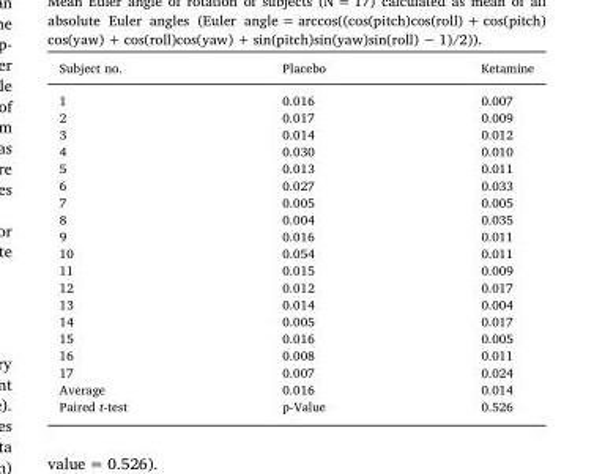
<table><thead><tr><td>Subject no.</td><td>Placebo</td><td>Ketamine</td></tr></thead><tbody><tr><td>1</td><td>0.016</td><td>0.007</td></tr><tr><td>2</td><td>0.017</td><td>0.009</td></tr><tr><td>3</td><td>0.014</td><td>0.012</td></tr><tr><td>4</td><td>0.030</td><td>0.010</td></tr><tr><td>5</td><td>0.013</td><td>0.011</td></tr><tr><td>6</td><td>0.027</td><td>0.033</td></tr><tr><td>7</td><td>0.005</td><td>0.005</td></tr><tr><td>8</td><td>0.004</td><td>0.035</td></tr><tr><td>9</td><td>0.016</td><td>0.011</td></tr><tr><td>10</td><td>0.054</td><td>0.011</td></tr><tr><td>11</td><td>0.015</td><td>0.009</td></tr><tr><td>12</td><td>0.012</td><td>0.017</td></tr><tr><td>13</td><td>0.014</td><td>0.004</td></tr><tr><td>14</td><td>0.005</td><td>0.017</td></tr><tr><td>15</td><td>0.016</td><td>0.005</td></tr><tr><td>16</td><td>0.008</td><td>0.011</td></tr><tr><td>17</td><td>0.007</td><td>0.024</td></tr><tr><td>Average</td><td>0.016</td><td>0.014</td></tr><tr><td>Paired t-test</td><td>p-Value</td><td>0.526</td></tr></tbody></table>